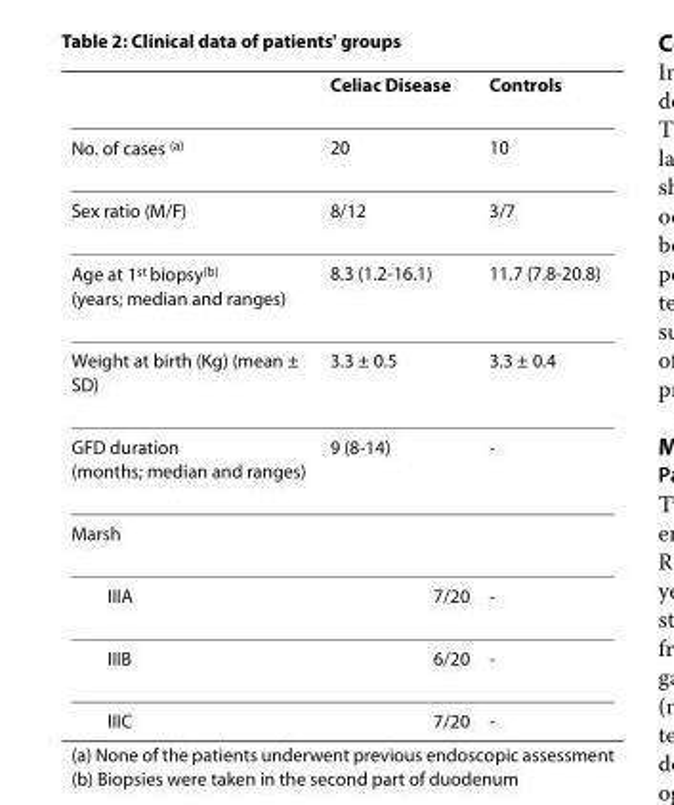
<table><thead><tr><td></td><td>Celiac Disease</td><td>Controls</td></tr></thead><tbody><tr><td>No. of cases <sup>(a)</sup></td><td>20</td><td>10</td></tr><tr><td>Sex ratio (M/F)</td><td>8/12</td><td>3/7</td></tr><tr><td>Age at 1<sup>st</sup> biopsy<sup>(b)</sup> (years; median and ranges)</td><td>8.3 (1.2-16.1)</td><td>11.7 (7.8-20.8)</td></tr><tr><td>Weight at birth (Kg) (mean ± SD)</td><td>3.3 ± 0.5</td><td>3.3 ± 0.4</td></tr><tr><td>GFD duration (months; median and ranges)</td><td>9 (8-14)</td><td>-</td></tr><tr><td colspan="3">Marsh</td></tr><tr><td>IIIA</td><td>7/20</td><td>-</td></tr><tr><td>IIIB</td><td>6/20</td><td>-</td></tr><tr><td>IIIC</td><td>7/20</td><td>-</td></tr></tbody></table>